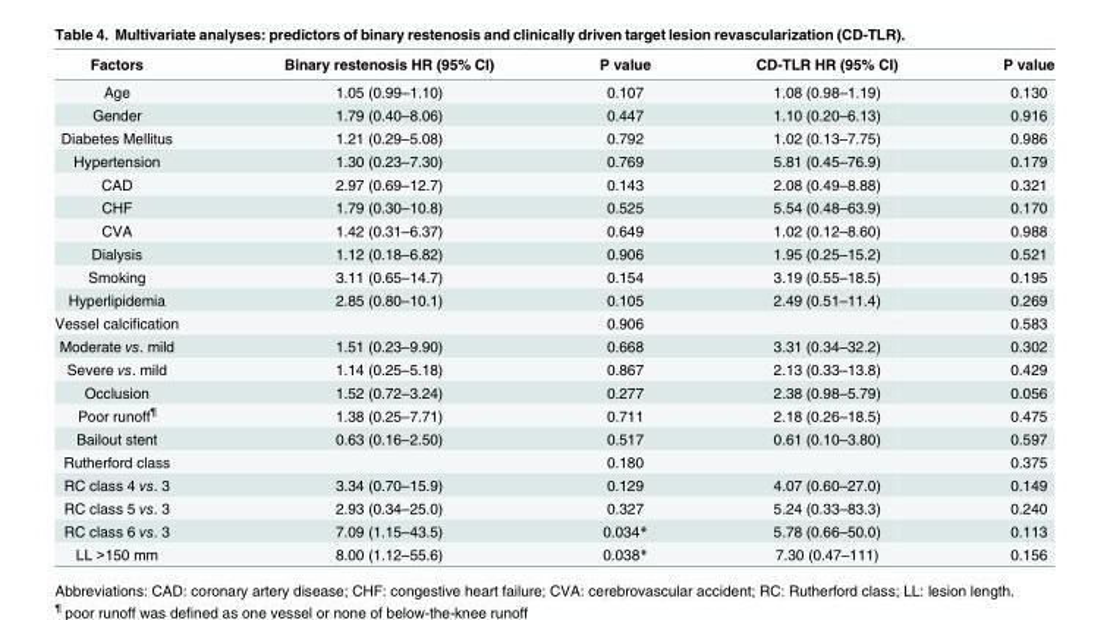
<table><thead><tr><td>Factors</td><td>Binary restenosis HR (95% CI)</td><td>P value</td><td>CD-TLR HR (95% CI)</td><td>P value</td></tr></thead><tbody><tr><td>Age</td><td>1.05 (0.99–1.10)</td><td>0.107</td><td>1.08 (0.98–1.19)</td><td>0.130</td></tr><tr><td>Gender</td><td>1.79 (0.40–8.06)</td><td>0.447</td><td>1.10 (0.20–6.13)</td><td>0.916</td></tr><tr><td>Diabetes Mellitus</td><td>1.21 (0.29–5.08)</td><td>0.792</td><td>1.02 (0.13–7.75)</td><td>0.986</td></tr><tr><td>Hypertension</td><td>1.30 (0.23–7.30)</td><td>0.769</td><td>5.81 (0.45–76.9)</td><td>0.179</td></tr><tr><td>CAD</td><td>2.97 (0.69–12.7)</td><td>0.143</td><td>2.08 (0.49–8.88)</td><td>0.321</td></tr><tr><td>CHF</td><td>1.79 (0.30–10.8)</td><td>0.525</td><td>5.54 (0.48–63.9)</td><td>0.170</td></tr><tr><td>CVA</td><td>1.42 (0.31–6.37)</td><td>0.649</td><td>1.02 (0.12–8.60)</td><td>0.988</td></tr><tr><td>Dialysis</td><td>1.12 (0.18–6.82)</td><td>0.906</td><td>1.95 (0.25–15.2)</td><td>0.521</td></tr><tr><td>Smoking</td><td>3.11 (0.65–14.7)</td><td>0.154</td><td>3.19 (0.55–18.5)</td><td>0.195</td></tr><tr><td>Hyperlipidemia</td><td>2.85 (0.80–10.1)</td><td>0.105</td><td>2.49 (0.51–11.4)</td><td>0.269</td></tr><tr><td>Vessel calcification</td><td></td><td>0.906</td><td></td><td>0.583</td></tr><tr><td>Moderate vs. mild</td><td>1.51 (0.23–9.90)</td><td>0.668</td><td>3.31 (0.34–32.2)</td><td>0.302</td></tr><tr><td>Severe vs. mild</td><td>1.14 (0.25–5.18)</td><td>0.867</td><td>2.13 (0.33–13.8)</td><td>0.429</td></tr><tr><td>Occlusion</td><td>1.52 (0.72–3.24)</td><td>0.277</td><td>2.38 (0.98–5.79)</td><td>0.056</td></tr><tr><td>Poor runoff<sup>¶</sup></td><td>1.38 (0.25–7.71)</td><td>0.711</td><td>2.18 (0.26–18.5)</td><td>0.475</td></tr><tr><td>Bailout stent</td><td>0.63 (0.16–2.50)</td><td>0.517</td><td>0.61 (0.10–3.80)</td><td>0.597</td></tr><tr><td>Rutherford class</td><td></td><td>0.180</td><td></td><td>0.375</td></tr><tr><td>RC class 4 vs. 3</td><td>3.34 (0.70–15.9)</td><td>0.129</td><td>4.07 (0.60–27.0)</td><td>0.149</td></tr><tr><td>RC class 5 vs. 3</td><td>2.93 (0.34–25.0)</td><td>0.327</td><td>5.24 (0.33–83.3)</td><td>0.240</td></tr><tr><td>RC class 6 vs. 3</td><td>7.09 (1.15–43.5)</td><td>0.034*</td><td>5.78 (0.66–50.0)</td><td>0.113</td></tr><tr><td>LL &gt;150 mm</td><td>8.00 (1.12–55.6)</td><td>0.038*</td><td>7.30 (0.47–111)</td><td>0.156</td></tr></tbody></table>